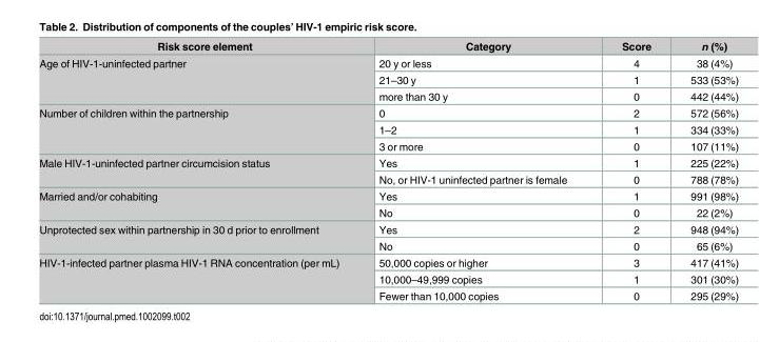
<table><thead><tr><td>Risk score element</td><td>Category</td><td>Score</td><td>n (%)</td></tr></thead><tbody><tr><td rowspan="3">Age of HIV-1-uninfected partner</td><td>20 y or less</td><td>4</td><td>38 (4%)</td></tr><tr><td>21–30 y</td><td>1</td><td>533 (53%)</td></tr><tr><td>more than 30 y</td><td>0</td><td>442 (44%)</td></tr><tr><td rowspan="3">Number of children within the partnership</td><td>0</td><td>2</td><td>572 (56%)</td></tr><tr><td>1–2</td><td>1</td><td>334 (33%)</td></tr><tr><td>3 or more</td><td>0</td><td>107 (11%)</td></tr><tr><td rowspan="2">Male HIV-1-uninfected partner circumcision status</td><td>Yes</td><td>1</td><td>225 (22%)</td></tr><tr><td>No, or HIV-1 uninfected partner is female</td><td>0</td><td>788 (78%)</td></tr><tr><td rowspan="2">Married and/or cohabiting</td><td>Yes</td><td>1</td><td>991 (98%)</td></tr><tr><td>No</td><td>0</td><td>22 (2%)</td></tr><tr><td rowspan="2">Unprotected sex within partnership in 30 d prior to enrollment</td><td>Yes</td><td>2</td><td>948 (94%)</td></tr><tr><td>No</td><td>0</td><td>65 (6%)</td></tr><tr><td rowspan="3">HIV-1-infected partner plasma HIV-1 RNA concentration (per mL)</td><td>50,000 copies or higher</td><td>3</td><td>417 (41%)</td></tr><tr><td>10,000–49,999 copies</td><td>1</td><td>301 (30%)</td></tr><tr><td>Fewer than 10,000 copies</td><td>0</td><td>295 (29%)</td></tr></tbody></table>